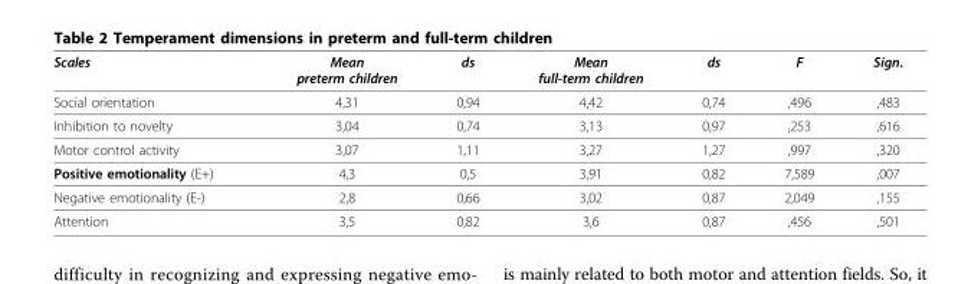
<table><thead><tr><td>Scales</td><td>Mean preterm children</td><td>ds</td><td>Mean full-term children</td><td>ds</td><td>F</td><td>Sign.</td></tr></thead><tbody><tr><td>Social orientation</td><td>4,31</td><td>0,94</td><td>4,42</td><td>0,74</td><td>,496</td><td>,483</td></tr><tr><td>Inhibition to novelty</td><td>3,04</td><td>0,74</td><td>3,13</td><td>0,97</td><td>,253</td><td>,616</td></tr><tr><td>Motor control activity</td><td>3,07</td><td>1,11</td><td>3,27</td><td>1,27</td><td>,997</td><td>,320</td></tr><tr><td>Positive emotionality (E+)</td><td>4,3</td><td>0,5</td><td>3,91</td><td>0,82</td><td>7,589</td><td>,007</td></tr><tr><td>Negative emotionality (E-)</td><td>2,8</td><td>0,66</td><td>3,02</td><td>0,87</td><td>2,049</td><td>,155</td></tr><tr><td>Attention</td><td>3,5</td><td>0,82</td><td>3,6</td><td>0,87</td><td>,456</td><td>,501</td></tr></tbody></table>